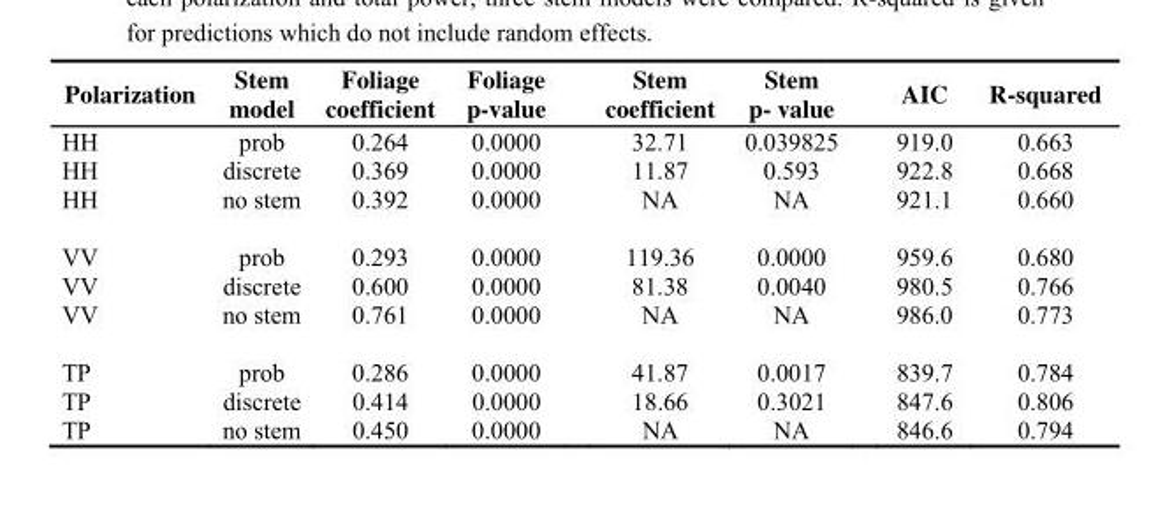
<table><thead><tr><td>Polarization</td><td>Stem model</td><td>Foliage coefficient</td><td>Foliage p-value</td><td>Stem coefficient</td><td>Stem p- value</td><td>AIC</td><td>R-squared</td></tr></thead><tbody><tr><td>HH</td><td>prob</td><td>0.264</td><td>0.0000</td><td>32.71</td><td>0.039825</td><td>919.0</td><td>0.663</td></tr><tr><td>HH</td><td>discrete</td><td>0.369</td><td>0.0000</td><td>11.87</td><td>0.593</td><td>922.8</td><td>0.668</td></tr><tr><td>HH</td><td>no stem</td><td>0.392</td><td>0.0000</td><td>NA</td><td>NA</td><td>921.1</td><td>0.660</td></tr><tr><td>VV</td><td>prob</td><td>0.293</td><td>0.0000</td><td>119.36</td><td>0.0000</td><td>959.6</td><td>0.680</td></tr><tr><td>VV</td><td>discrete</td><td>0.600</td><td>0.0000</td><td>81.38</td><td>0.0040</td><td>980.5</td><td>0.766</td></tr><tr><td>VV</td><td>no stem</td><td>0.761</td><td>0.0000</td><td>NA</td><td>NA</td><td>986.0</td><td>0.773</td></tr><tr><td>TP</td><td>prob</td><td>0.286</td><td>0.0000</td><td>41.87</td><td>0.0017</td><td>839.7</td><td>0.784</td></tr><tr><td>TP</td><td>discrete</td><td>0.414</td><td>0.0000</td><td>18.66</td><td>0.3021</td><td>847.6</td><td>0.806</td></tr><tr><td>TP</td><td>no stem</td><td>0.450</td><td>0.0000</td><td>NA</td><td>NA</td><td>846.6</td><td>0.794</td></tr></tbody></table>